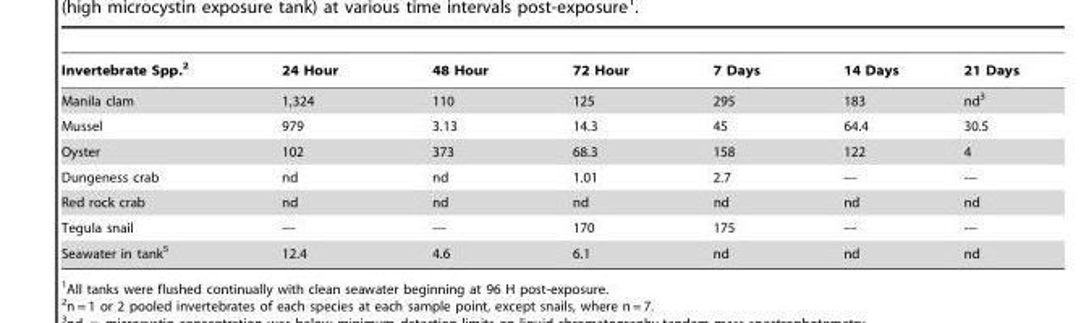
<table><thead><tr><td>Invertebrate Spp.<sup>2</sup></td><td>24 Hour</td><td>48 Hour</td><td>72 Hour</td><td>7 Days</td><td>14 Days</td><td>21 Days</td></tr></thead><tbody><tr><td>Manila clam</td><td>1,324</td><td>110</td><td>125</td><td>295</td><td>183</td><td>nd<sup>3</sup></td></tr><tr><td>Mussel</td><td>979</td><td>3.13</td><td>14.3</td><td>45</td><td>64.4</td><td>30.5</td></tr><tr><td>Oyster</td><td>102</td><td>373</td><td>68.3</td><td>158</td><td>122</td><td>4</td></tr><tr><td>Dungeness crab</td><td>nd</td><td>nd</td><td>1.01</td><td>2.7</td><td>---</td><td>---</td></tr><tr><td>Red rock crab</td><td>nd</td><td>nd</td><td>nd</td><td>nd</td><td>nd</td><td>nd</td></tr><tr><td>Tegula snail</td><td>---</td><td>---</td><td>170</td><td>175</td><td>---</td><td>---</td></tr><tr><td>Seawater in tank<sup>5</sup></td><td>12.4</td><td>4.6</td><td>6.1</td><td>nd</td><td>nd</td><td>nd</td></tr></tbody></table>